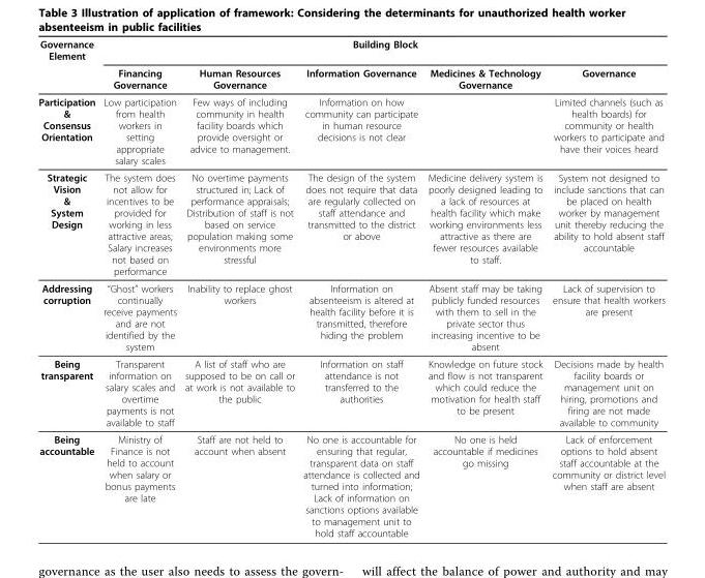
<table><thead><tr><td rowspan="2">Governance Element</td><td colspan="5">Building Block</td></tr><tr><td>Financing Governance</td><td>Human Resources Governance</td><td>Information Governance</td><td>Medicines &amp; Technology Governance</td><td>Governance</td></tr></thead><tbody><tr><td>Participation &amp; Consensus Orientation</td><td>Low participation from health workers in setting appropriate salary scales</td><td>Few ways of including community in health facility boards which provide oversight or advice to management.</td><td>Information on how community can participate in human resource decisions is not clear</td><td></td><td>Limited channels (such as health boards) for community or health workers to participate and have their voices heard</td></tr><tr><td>Strategic Vision &amp; System Design</td><td>The system does not allow for incentives to be provided for working in less attractive areas; Salary increases not based on performance</td><td>No overtime payments structured in; Lack of performance appraisals; Distribution of staff is not based on service population making some environments more stressful</td><td>The design of the system does not require that data are regularly collected on staff attendance and transmitted to the district or above</td><td>Medicine delivery system is poorly designed leading to a lack of resources at health facility which make working environments less attractive as there are fewer resources available to staff.</td><td>System not designed to include sanctions that can be placed on health worker by management unit thereby reducing the ability to hold absent staff accountable</td></tr><tr><td>Addressing corruption</td><td>“Ghost” workers continually receive payments and are not identified by the system</td><td>Inability to replace ghost workers</td><td>Information on absenteeism is altered at health facility before it is transmitted, therefore hiding the problem</td><td>Absent staff may be taking publicly funded resources with them to sell in the private sector thus increasing incentive to be absent</td><td>Lack of supervision to ensure that health workers are present</td></tr><tr><td>Being transparent</td><td>Transparent information on salary scales and overtime payments is not available to staff</td><td>A list of staff who are supposed to be on call or at work is not available to the public</td><td>Information on staff attendance is not transferred to the authorities</td><td>Knowledge on future stock and flow is not transparent which could reduce the motivation for health staff to be present</td><td>Decisions made by health facility boards or management unit on hiring, promotions and firing are not made available to community</td></tr><tr><td>Being accountable</td><td>Ministry of Finance is not held to account when salary or bonus payments are late</td><td>Staff are not held to account when absent</td><td>No one is accountable for ensuring that regular, transparent data on staff attendance is collected and turned into information; Lack of information on sanctions options available to management unit to hold staff accountable</td><td>No one is held accountable if medicines go missing</td><td>Lack of enforcement options to hold absent staff accountable at the community or district level when staff are absent</td></tr></tbody></table>